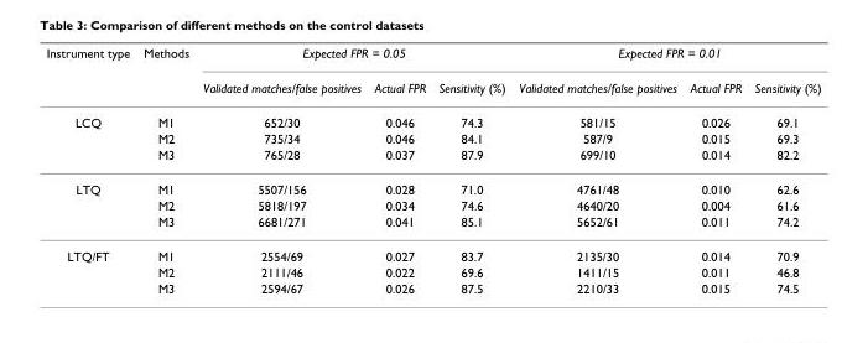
<table><thead><tr><td rowspan="2">Instrument type</td><td rowspan="2">Methods</td><td colspan="3">Expected FPR = 0.05</td><td colspan="3">Expected FPR = 0.01</td></tr><tr><td>Validated matches/false positives</td><td>Actual FPR</td><td>Sensitivity (%)</td><td>Validated matches/false positives</td><td>Actual FPR</td><td>Sensitivity (%)</td></tr></thead><tbody><tr><td rowspan="3">LCQ</td><td>M1</td><td>652/30</td><td>0.046</td><td>74.3</td><td>581/15</td><td>0.026</td><td>69.1</td></tr><tr><td>M2</td><td>735/34</td><td>0.046</td><td>84.1</td><td>587/9</td><td>0.015</td><td>69.3</td></tr><tr><td>M3</td><td>765/28</td><td>0.037</td><td>87.9</td><td>699/10</td><td>0.014</td><td>82.2</td></tr><tr><td rowspan="3">LTQ</td><td>M1</td><td>5507/156</td><td>0.028</td><td>71.0</td><td>4761/48</td><td>0.010</td><td>62.6</td></tr><tr><td>M2</td><td>5818/197</td><td>0.034</td><td>74.6</td><td>4640/20</td><td>0.004</td><td>61.6</td></tr><tr><td>M3</td><td>6681/271</td><td>0.041</td><td>85.1</td><td>5652/61</td><td>0.011</td><td>74.2</td></tr><tr><td rowspan="3">LTQ/FT</td><td>M1</td><td>2554/69</td><td>0.027</td><td>83.7</td><td>2135/30</td><td>0.014</td><td>70.9</td></tr><tr><td>M2</td><td>2111/46</td><td>0.022</td><td>69.6</td><td>1411/15</td><td>0.011</td><td>46.8</td></tr><tr><td>M3</td><td>2594/67</td><td>0.026</td><td>87.5</td><td>2210/33</td><td>0.015</td><td>74.5</td></tr></tbody></table>